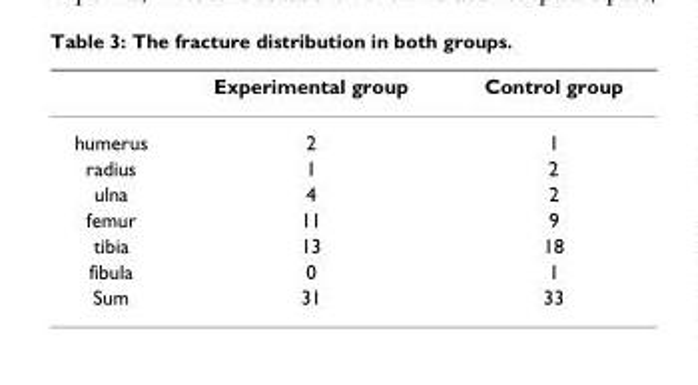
<table><thead><tr><td></td><td>Experimental group</td><td>Control group</td></tr></thead><tbody><tr><td>humerus</td><td>2</td><td>1</td></tr><tr><td>radius</td><td>1</td><td>2</td></tr><tr><td>ulna</td><td>4</td><td>2</td></tr><tr><td>femur</td><td>11</td><td>9</td></tr><tr><td>tibia</td><td>13</td><td>18</td></tr><tr><td>fibula</td><td>0</td><td>1</td></tr><tr><td>Sum</td><td>31</td><td>33</td></tr></tbody></table>